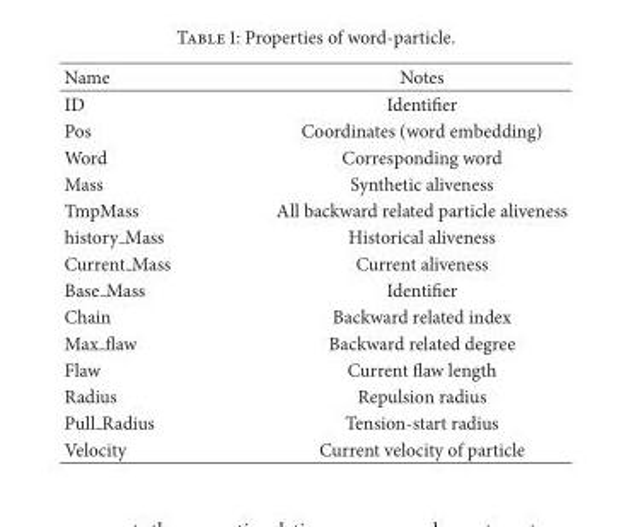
<table><thead><tr><td>Name</td><td>Notes</td></tr></thead><tbody><tr><td>ID</td><td>Identifier</td></tr><tr><td>Pos</td><td>Coordinates (word embedding)</td></tr><tr><td>Word</td><td>Corresponding word</td></tr><tr><td>Mass</td><td>Synthetic aliveness</td></tr><tr><td>TmpMass</td><td>All backward related particle aliveness</td></tr><tr><td>history Mass</td><td>Historical aliveness</td></tr><tr><td>Current Mass</td><td>Current aliveness</td></tr><tr><td>Base Mass</td><td>Identifier</td></tr><tr><td>Chain</td><td>Backward related index</td></tr><tr><td>Max flaw</td><td>Backward related degree</td></tr><tr><td>Flaw</td><td>Current flaw length</td></tr><tr><td>Radius</td><td>Repulsion radius</td></tr><tr><td>Pull Radius</td><td>Tension-start radius</td></tr><tr><td>Velocity</td><td>Current velocity of particle</td></tr></tbody></table>